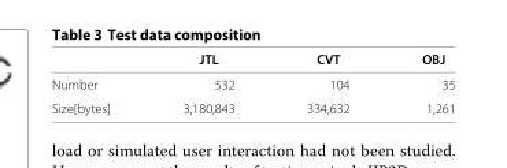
<table><thead><tr><td></td><td>JTL</td><td>CVT</td><td>OBJ</td></tr></thead><tbody><tr><td>Number</td><td>532</td><td>104</td><td>35</td></tr><tr><td>Size[bytes]</td><td>3,180,843</td><td>334,632</td><td>1,261</td></tr></tbody></table>